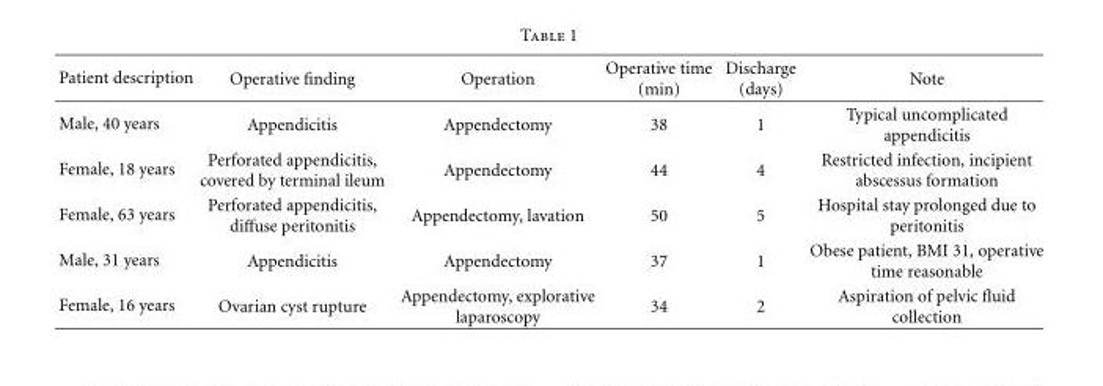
<table><thead><tr><td>Patient description</td><td>Operative finding</td><td>Operation</td><td>Operative time (min)</td><td>Discharge (days)</td><td>Note</td></tr></thead><tbody><tr><td>Male, 40 years</td><td>Appendicitis</td><td>Appendectomy</td><td>38</td><td>1</td><td>Typical uncomplicated appendicitis</td></tr><tr><td>Female, 18 years</td><td>Perforated appendicitis, covered by terminal ileum</td><td>Appendectomy</td><td>44</td><td>4</td><td>Restricted infection, incipient abscessus formation</td></tr><tr><td>Female, 63 years</td><td>Perforated appendicitis, diffuse peritonitis</td><td>Appendectomy, lavation</td><td>50</td><td>5</td><td>Hospital stay prolonged due to peritonitis</td></tr><tr><td>Male, 31 years</td><td>Appendicitis</td><td>Appendectomy</td><td>37</td><td>1</td><td>Obese patient, BMI 31, operative time reasonable</td></tr><tr><td>Female, 16 years</td><td>Ovarian cyst rupture</td><td>Appendectomy, explorative laparoscopy</td><td>34</td><td>2</td><td>Aspiration of pelvic fluid collection</td></tr></tbody></table>